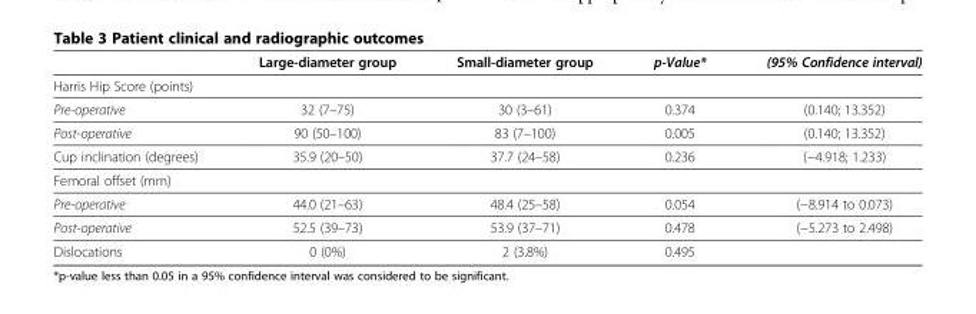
<table><thead><tr><td></td><td>Large-diameter group</td><td>Small-diameter group</td><td>p-Value*</td><td>(95% Confidence interval)</td></tr></thead><tbody><tr><td colspan="5">Harris Hip Score (points)</td></tr><tr><td>Pre-operative</td><td>32 (7–75)</td><td>30 (3–61)</td><td>0.374</td><td>(0.140; 13.352)</td></tr><tr><td>Post-operative</td><td>90 (50–100)</td><td>83 (7–100)</td><td>0.005</td><td>(0.140; 13.352)</td></tr><tr><td>Cup inclination (degrees)</td><td>35.9 (20–50)</td><td>37.7 (24–58)</td><td>0.236</td><td>(−4.918; 1.233)</td></tr><tr><td colspan="5">Femoral offset (mm)</td></tr><tr><td>Pre-operative</td><td>44.0 (21–63)</td><td>48.4 (25–58)</td><td>0.054</td><td>(−8.914 to 0.073)</td></tr><tr><td>Post-operative</td><td>52.5 (39–73)</td><td>53.9 (37–71)</td><td>0.478</td><td>(−5.273 to 2.498)</td></tr><tr><td>Dislocations</td><td>0 (0%)</td><td>2 (3.8%)</td><td>0.495</td><td></td></tr></tbody></table>